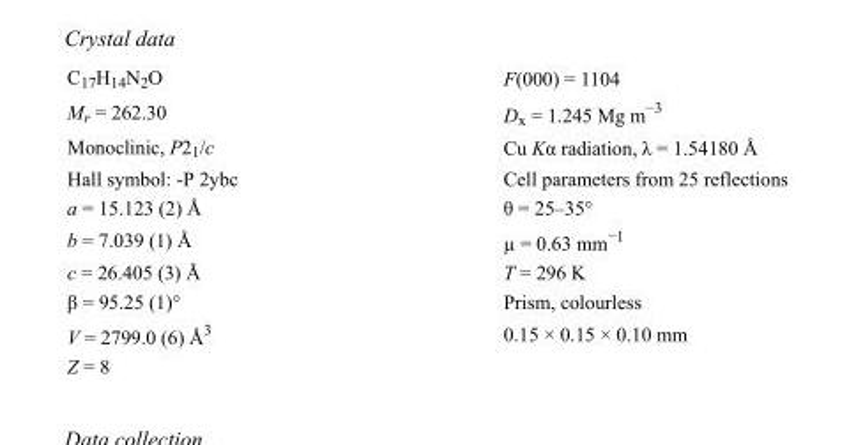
<table><tbody><tr><td>C<sub>17</sub>H<sub>14</sub>N<sub>2</sub>O</td><td>F(000) = 1104</td></tr><tr><td>M<sub>r</sub> = 262.30</td><td>D<sub>x</sub> = 1.245 Mg m<sup>−3</sup></td></tr><tr><td>Monoclinic, P2<sub>1</sub>/c</td><td>Cu Kα radiation, λ = 1.54180 Å</td></tr><tr><td>Hall symbol: -P 2ybc</td><td>Cell parameters from 25 reflections</td></tr><tr><td>a = 15.123 (2) Å</td><td>θ = 25–35°</td></tr><tr><td>b = 7.039 (1) Å</td><td>µ = 0.63 mm<sup>−1</sup></td></tr><tr><td>c = 26.405 (3) Å</td><td>T = 296 K</td></tr><tr><td>β = 95.25 (1)°</td><td>Prism, colourless</td></tr><tr><td>V = 2799.0 (6) Å<sup>3</sup></td><td>0.15 × 0.15 × 0.10 mm</td></tr><tr><td>Z = 8</td><td></td></tr></tbody></table>